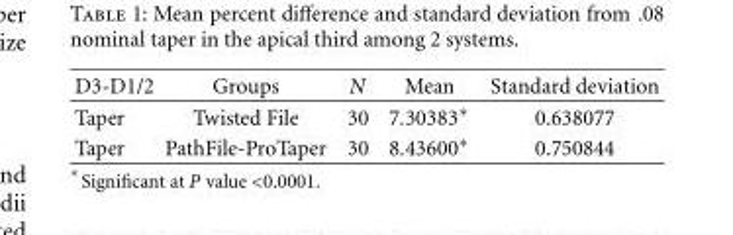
<table><thead><tr><td>D3-D1/2</td><td>Groups</td><td>N</td><td>Mean</td><td>Standard deviation</td></tr></thead><tbody><tr><td>Taper</td><td>Twisted File</td><td>30</td><td>7.30383∗</td><td>0.638077</td></tr><tr><td>Taper</td><td>PathFile-ProTaper</td><td>30</td><td>8.43600∗</td><td>0.750844</td></tr></tbody></table>